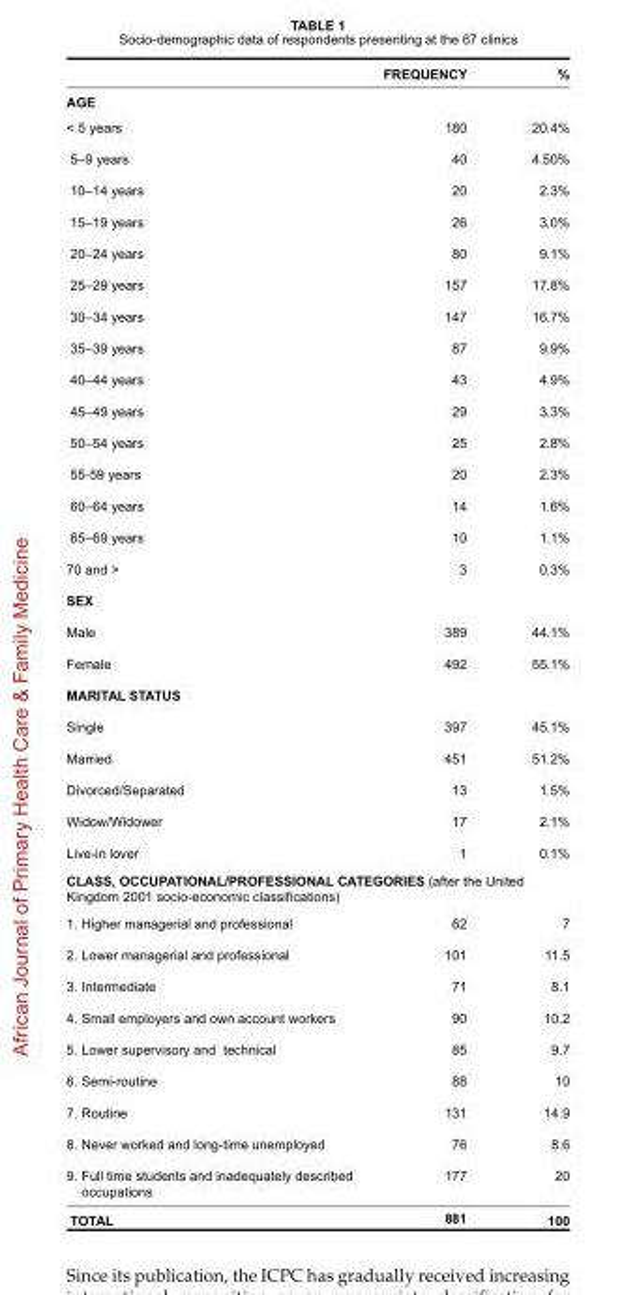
<table><thead><tr><td></td><td>FrEquEncy</td><td>%</td></tr></thead><tbody><tr><td colspan="3">AgE</td></tr><tr><td>&lt; 5 years</td><td>180</td><td>20.4%</td></tr><tr><td>5–9 years</td><td>40</td><td>4.50%</td></tr><tr><td>10–14 years</td><td>20</td><td>2.3%</td></tr><tr><td>15–19 years</td><td>26</td><td>3.0%</td></tr><tr><td>20–24 years</td><td>80</td><td>9.1%</td></tr><tr><td>25–29 years</td><td>157</td><td>17.8%</td></tr><tr><td>30–34 years</td><td>147</td><td>16.7%</td></tr><tr><td>35–39 years</td><td>87</td><td>9.9%</td></tr><tr><td>40–44 years</td><td>43</td><td>4.9%</td></tr><tr><td>45–49 years</td><td>29</td><td>3.3%</td></tr><tr><td>50–54 years</td><td>25</td><td>2.8%</td></tr><tr><td>55-59 years</td><td>20</td><td>2.3%</td></tr><tr><td>60–64 years</td><td>14</td><td>1.6%</td></tr><tr><td>65–69 years</td><td>10</td><td>1.1%</td></tr><tr><td>70 and &gt;</td><td>3</td><td>0.3%</td></tr><tr><td colspan="3">SEx</td></tr><tr><td>Male</td><td>389</td><td>44.1%</td></tr><tr><td>Female</td><td>492</td><td>55.1%</td></tr><tr><td colspan="3">MAriTAL STATuS</td></tr><tr><td>Single</td><td>397</td><td>45.1%</td></tr><tr><td>Married</td><td>451</td><td>51.2%</td></tr><tr><td>Divorced/Separated</td><td>13</td><td>1.5%</td></tr><tr><td>Widow/Widower</td><td>17</td><td>2.1%</td></tr><tr><td>Live-in lover</td><td>1</td><td>0.1%</td></tr><tr><td colspan="3">cLASS, OccupATiOnAL/prOFESSiOnAL cATEgOriES (after the United Kingdom 2001 socio-economic classifications)</td></tr><tr><td>1. Higher managerial and professional</td><td>62</td><td>7</td></tr><tr><td>2. Lower managerial and professional</td><td>101</td><td>11.5</td></tr><tr><td>3. Intermediate</td><td>71</td><td>8.1</td></tr><tr><td>4. Small employers and own account workers</td><td>90</td><td>10.2</td></tr><tr><td>5. Lower supervisory and technical</td><td>85</td><td>9.7</td></tr><tr><td>6. Semi-routine</td><td>88</td><td>10</td></tr><tr><td>7. Routine</td><td>131</td><td>14.9</td></tr><tr><td>8. Never worked and long-time unemployed</td><td>76</td><td>8.6</td></tr><tr><td>9. Full time students and inadequately described occupations</td><td>177</td><td>20</td></tr><tr><td>TOTAL</td><td>881</td><td>100</td></tr></tbody></table>